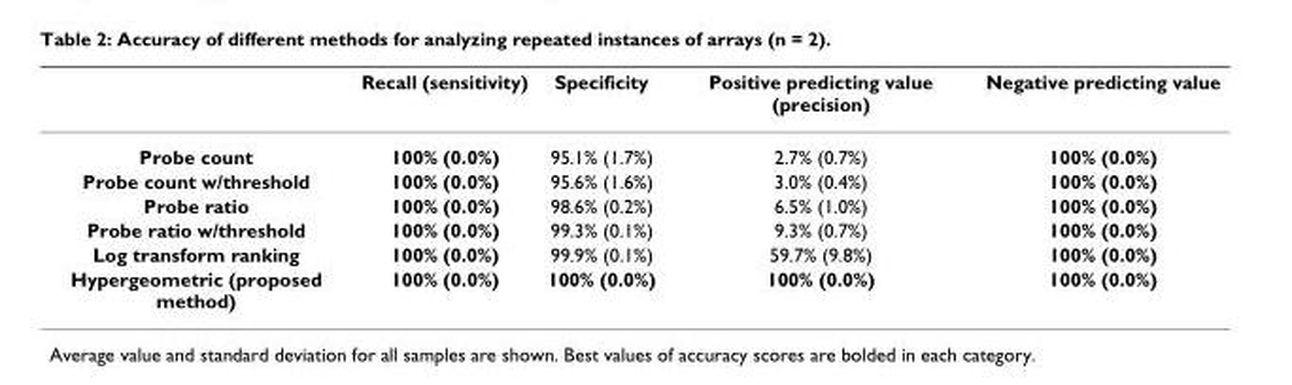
<table><thead><tr><td></td><td>Recall (sensitivity)</td><td>Specificity</td><td>Positive predicting value (precision)</td><td>Negative predicting value</td></tr></thead><tbody><tr><td>Probe count</td><td>100% (0.0%)</td><td>95.1% (1.7%)</td><td>2.7% (0.7%)</td><td>100% (0.0%)</td></tr><tr><td>Probe count w/threshold</td><td>100% (0.0%)</td><td>95.6% (1.6%)</td><td>3.0% (0.4%)</td><td>100% (0.0%)</td></tr><tr><td>Probe ratio</td><td>100% (0.0%)</td><td>98.6% (0.2%)</td><td>6.5% (1.0%)</td><td>100% (0.0%)</td></tr><tr><td>Probe ratio w/threshold</td><td>100% (0.0%)</td><td>99.3% (0.1%)</td><td>9.3% (0.7%)</td><td>100% (0.0%)</td></tr><tr><td>Log transform ranking</td><td>100% (0.0%)</td><td>99.9% (0.1%)</td><td>59.7% (9.8%)</td><td>100% (0.0%)</td></tr><tr><td>Hypergeometric (proposed method)</td><td>100% (0.0%)</td><td>100% (0.0%)</td><td>100% (0.0%)</td><td>100% (0.0%)</td></tr></tbody></table>